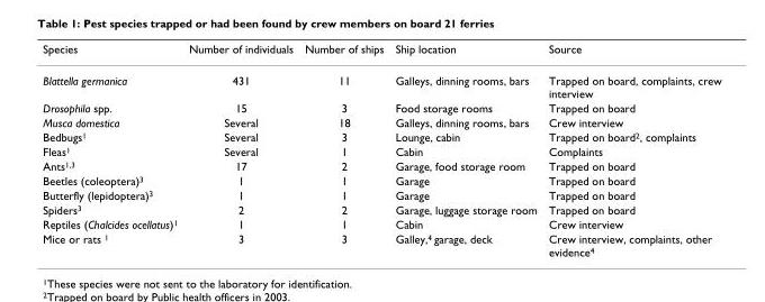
<table><thead><tr><td>Species</td><td>Number of individuals</td><td>Number of ships</td><td>Ship location</td><td>Source</td></tr></thead><tbody><tr><td>Blattella germanica</td><td>431</td><td>11</td><td>Galleys, dinning rooms, bars</td><td>Trapped on board, complaints, crew interview</td></tr><tr><td>Drosophila spp.</td><td>15</td><td>3</td><td>Food storage rooms</td><td>Trapped on board</td></tr><tr><td>Musca domestica</td><td>Several</td><td>18</td><td>Galleys, dinning rooms, bars</td><td>Crew interview</td></tr><tr><td>Bedbugs<sup>1</sup></td><td>Several</td><td>3</td><td>Lounge, cabin</td><td>Trapped on board<sup>2</sup>, complaints</td></tr><tr><td>Fleas<sup>1</sup></td><td>Several</td><td>1</td><td>Cabin</td><td>Complaints</td></tr><tr><td>Ants<sup>1,3</sup></td><td>17</td><td>2</td><td>Garage, food storage room</td><td>Trapped on board</td></tr><tr><td>Beetles (coleoptera)<sup>3</sup></td><td>1</td><td>1</td><td>Garage</td><td>Trapped on board</td></tr><tr><td>Butterfly (lepidoptera)<sup>3</sup></td><td>1</td><td>1</td><td>Garage</td><td>Trapped on board</td></tr><tr><td>Spiders<sup>3</sup></td><td>2</td><td>2</td><td>Garage, luggage storage room</td><td>Trapped on board</td></tr><tr><td>Reptiles (Chalcides ocellatus)<sup>1</sup></td><td>1</td><td>1</td><td>Cabin</td><td>Crew interview</td></tr><tr><td>Mice or rats <sup>1</sup></td><td>3</td><td>3</td><td>Galley,<sup>4</sup> garage, deck</td><td>Crew interview, complaints, other evidence<sup>4</sup></td></tr></tbody></table>